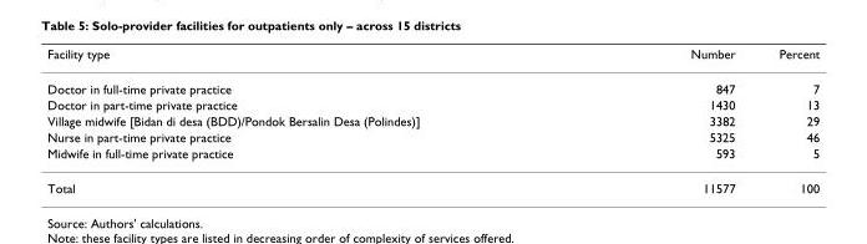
<table><thead><tr><td>Facility type</td><td>Number</td><td>Percent</td></tr></thead><tbody><tr><td>Doctor in full-time private practice</td><td>847</td><td>7</td></tr><tr><td>Doctor in part-time private practice</td><td>1430</td><td>13</td></tr><tr><td>Village midwife [Bidan di desa (BDD)/Pondok Bersalin Desa (Polindes)]</td><td>3382</td><td>29</td></tr><tr><td>Nurse in part-time private practice</td><td>5325</td><td>46</td></tr><tr><td>Midwife in full-time private practice</td><td>593</td><td>5</td></tr><tr><td>Total</td><td>11577</td><td>100</td></tr></tbody></table>